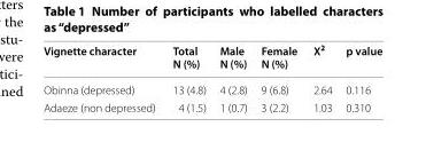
<table><thead><tr><td>Vignette character</td><td>Total N (%)</td><td>Male N (%)</td><td>Female N (%)</td><td>X<sup>2</sup></td><td>p value</td></tr></thead><tbody><tr><td>Obinna (depressed)</td><td>13 (4.8)</td><td>4 (2.8)</td><td>9 (6.8)</td><td>2.64</td><td>0.116</td></tr><tr><td>Adaeze (non depressed)</td><td>4 (1.5)</td><td>1 (0.7)</td><td>3 (2.2)</td><td>1.03</td><td>0.310</td></tr></tbody></table>